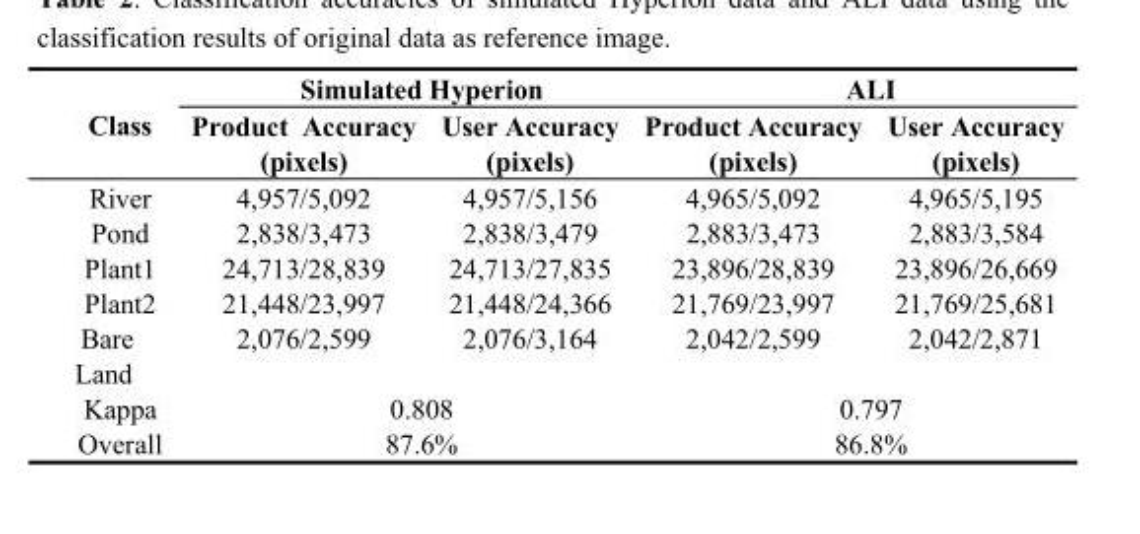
<table><thead><tr><td rowspan="2">Class</td><td colspan="2">Simulated Hyperion</td><td colspan="2">ALI</td></tr><tr><td>Product Accuracy (pixels)</td><td>User Accuracy (pixels)</td><td>Product Accuracy (pixels)</td><td>User Accuracy (pixels)</td></tr></thead><tbody><tr><td>River</td><td>4,957/5,092</td><td>4,957/5,156</td><td>4,965/5,092</td><td>4,965/5,195</td></tr><tr><td>Pond</td><td>2,838/3,473</td><td>2,838/3,479</td><td>2,883/3,473</td><td>2,883/3,584</td></tr><tr><td>Plant1</td><td>24,713/28,839</td><td>24,713/27,835</td><td>23,896/28,839</td><td>23,896/26,669</td></tr><tr><td>Plant2</td><td>21,448/23,997</td><td>21,448/24,366</td><td>21,769/23,997</td><td>21,769/25,681</td></tr><tr><td>Bare Land</td><td>2,076/2,599</td><td>2,076/3,164</td><td>2,042/2,599</td><td>2,042/2,871</td></tr><tr><td>Kappa</td><td colspan="2">0.808</td><td colspan="2">0.797</td></tr><tr><td>Overall</td><td colspan="2">87.6%</td><td colspan="2">86.8%</td></tr></tbody></table>